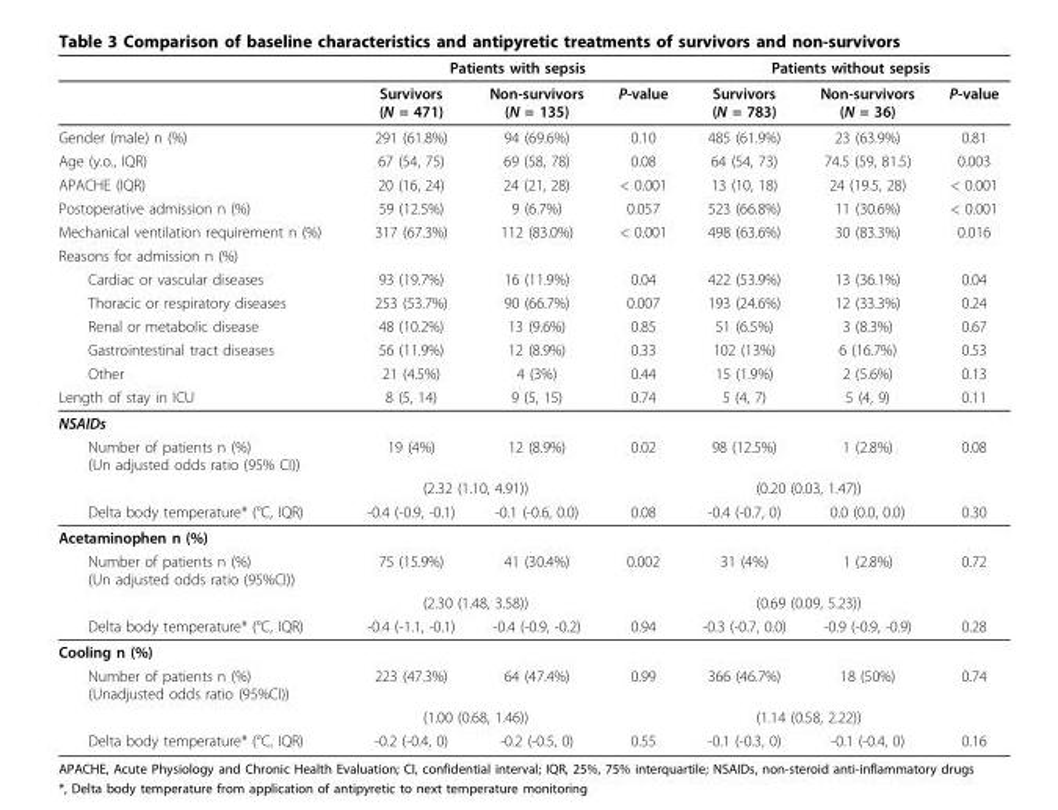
<table><thead><tr><td rowspan="2"></td><td colspan="3">Patients with sepsis</td><td colspan="3">Patients without sepsis</td></tr><tr><td>Survivors (N = 471)</td><td>Non-survivors (N = 135)</td><td>P-value</td><td>Survivors (N = 783)</td><td>Non-survivors (N = 36)</td><td>P-value</td></tr></thead><tbody><tr><td>Gender (male) n (%)</td><td>291 (61.8%)</td><td>94 (69.6%)</td><td>0.10</td><td>485 (61.9%)</td><td>23 (63.9%)</td><td>0.81</td></tr><tr><td>Age (y.o., IQR)</td><td>67 (54, 75)</td><td>69 (58, 78)</td><td>0.08</td><td>64 (54, 73)</td><td>74.5 (59, 81.5)</td><td>0.003</td></tr><tr><td>APACHE (IQR)</td><td>20 (16, 24)</td><td>24 (21, 28)</td><td>&lt; 0.001</td><td>13 (10, 18)</td><td>24 (19.5, 28)</td><td>&lt; 0.001</td></tr><tr><td>Postoperative admission n (%)</td><td>59 (12.5%)</td><td>9 (6.7%)</td><td>0.057</td><td>523 (66.8%)</td><td>11 (30.6%)</td><td>&lt; 0.001</td></tr><tr><td>Mechanical ventilation requirement n (%)</td><td>317 (67.3%)</td><td>112 (83.0%)</td><td>&lt; 0.001</td><td>498 (63.6%)</td><td>30 (83.3%)</td><td>0.016</td></tr><tr><td colspan="7">Reasons for admission n (%)</td></tr><tr><td>Cardiac or vascular diseases</td><td>93 (19.7%)</td><td>16 (11.9%)</td><td>0.04</td><td>422 (53.9%)</td><td>13 (36.1%)</td><td>0.04</td></tr><tr><td>Thoracic or respiratory diseases</td><td>253 (53.7%)</td><td>90 (66.7%)</td><td>0.007</td><td>193 (24.6%)</td><td>12 (33.3%)</td><td>0.24</td></tr><tr><td>Renal or metabolic disease</td><td>48 (10.2%)</td><td>13 (9.6%)</td><td>0.85</td><td>51 (6.5%)</td><td>3 (8.3%)</td><td>0.67</td></tr><tr><td>Gastrointestinal tract diseases</td><td>56 (11.9%)</td><td>12 (8.9%)</td><td>0.33</td><td>102 (13%)</td><td>6 (16.7%)</td><td>0.53</td></tr><tr><td>Other</td><td>21 (4.5%)</td><td>4 (3%)</td><td>0.44</td><td>15 (1.9%)</td><td>2 (5.6%)</td><td>0.13</td></tr><tr><td>Length of stay in ICU</td><td>8 (5, 14)</td><td>9 (5, 15)</td><td>0.74</td><td>5 (4, 7)</td><td>5 (4, 9)</td><td>0.11</td></tr><tr><td colspan="7">NSAIDs</td></tr><tr><td rowspan="2">Number of patients n (%) (Un adjusted odds ratio (95% CI))</td><td>19 (4%)</td><td>12 (8.9%)</td><td>0.02</td><td>98 (12.5%)</td><td>1 (2.8%)</td><td>0.08</td></tr><tr><td colspan="2">(2.32 (1.10, 4.91))</td><td></td><td colspan="2">(0.20 (0.03, 1.47))</td><td></td></tr><tr><td>Delta body temperature* (°C, IQR)</td><td>-0.4 (-0.9, -0.1)</td><td>-0.1 (-0.6, 0.0)</td><td>0.08</td><td>-0.4 (-0.7, 0)</td><td>0.0 (0.0, 0.0)</td><td>0.30</td></tr><tr><td colspan="7">Acetaminophen n (%)</td></tr><tr><td rowspan="2">Number of patients n (%) (Un adjusted odds ratio (95%CI))</td><td>75 (15.9%)</td><td>41 (30.4%)</td><td>0.002</td><td>31 (4%)</td><td>1 (2.8%)</td><td>0.72</td></tr><tr><td colspan="2">(2.30 (1.48, 3.58))</td><td></td><td colspan="2">(0.69 (0.09, 5.23))</td><td></td></tr><tr><td>Delta body temperature* (°C, IQR)</td><td>-0.4 (-1.1, -0.1)</td><td>-0.4 (-0.9, -0.2)</td><td>0.94</td><td>-0.3 (-0.7, 0.0)</td><td>-0.9 (-0.9, -0.9)</td><td>0.28</td></tr><tr><td colspan="7">Cooling n (%)</td></tr><tr><td rowspan="2">Number of patients n (%) (Unadjusted odds ratio (95%CI))</td><td>223 (47.3%)</td><td>64 (47.4%)</td><td>0.99</td><td>366 (46.7%)</td><td>18 (50%)</td><td>0.74</td></tr><tr><td colspan="2">(1.00 (0.68, 1.46))</td><td></td><td colspan="2">(1.14 (0.58, 2.22))</td><td></td></tr><tr><td>Delta body temperature* (°C, IQR)</td><td>-0.2 (-0.4, 0)</td><td>-0.2 (-0.5, 0)</td><td>0.55</td><td>-0.1 (-0.3, 0)</td><td>-0.1 (-0.4, 0)</td><td>0.16</td></tr></tbody></table>